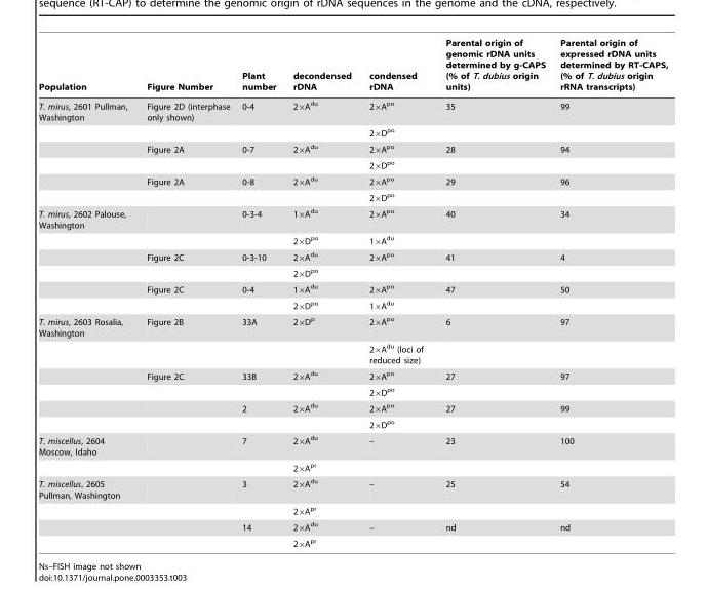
<table><thead><tr><td>Population</td><td>Figure Number</td><td>Plant number</td><td>decondensed rDNA</td><td>condensed rDNA</td><td>Parental origin of genomic rDNA units determined by g-CAPS (% of T. dubius origin units)</td><td>Parental origin of expressed rDNA units determined by RT-CAPS, (% of T. dubius origin rRNA transcripts)</td></tr></thead><tbody><tr><td rowspan="6">T. mirus, 2601 Pullman, Washington</td><td>Figure 2D (interphase only shown)</td><td>0-4</td><td>2×A<sup>du</sup></td><td>2×A<sup>po</sup></td><td>35</td><td>99</td></tr><tr><td></td><td></td><td></td><td>2×D<sup>po</sup></td><td></td><td></td></tr><tr><td>Figure 2A</td><td>0-7</td><td>2×A<sup>du</sup></td><td>2×A<sup>po</sup></td><td>28</td><td>94</td></tr><tr><td></td><td></td><td></td><td>2×D<sup>po</sup></td><td></td><td></td></tr><tr><td>Figure 2A</td><td>0-8</td><td>2×A<sup>du</sup></td><td>2×A<sup>po</sup></td><td>29</td><td>96</td></tr><tr><td></td><td></td><td></td><td>2×D<sup>po</sup></td><td></td><td></td></tr><tr><td rowspan="6">T. mirus, 2602 Palouse, Washington</td><td></td><td>0-3-4</td><td>1×A<sup>du</sup></td><td>2×A<sup>po</sup></td><td>40</td><td>34</td></tr><tr><td></td><td></td><td>2×D<sup>po</sup></td><td>1×A<sup>du</sup></td><td></td><td></td></tr><tr><td>Figure 2C</td><td>0-3-10</td><td>2×A<sup>du</sup></td><td>2×A<sup>po</sup></td><td>41</td><td>4</td></tr><tr><td></td><td></td><td>2×D<sup>po</sup></td><td></td><td></td><td></td></tr><tr><td>Figure 2C</td><td>0-4</td><td>1×A<sup>du</sup></td><td>2×A<sup>po</sup></td><td>47</td><td>50</td></tr><tr><td></td><td></td><td>2×D<sup>po</sup></td><td>1×A<sup>du</sup></td><td></td><td></td></tr><tr><td rowspan="6">T. mirus, 2603 Rosalia, Washington</td><td>Figure 2B</td><td>33A</td><td>2×D<sup>p</sup></td><td>2×A<sup>po</sup></td><td>6</td><td>97</td></tr><tr><td></td><td></td><td></td><td>2×A<sup>du</sup> (loci of reduced size)</td><td></td><td></td></tr><tr><td>Figure 2C</td><td>33B</td><td>2×A<sup>du</sup></td><td>2×A<sup>po</sup></td><td>27</td><td>97</td></tr><tr><td></td><td></td><td></td><td>2×D<sup>po</sup></td><td></td><td></td></tr><tr><td></td><td>2</td><td>2×A<sup>du</sup></td><td>2×A<sup>po</sup></td><td>27</td><td>99</td></tr><tr><td></td><td></td><td></td><td>2×D<sup>po</sup></td><td></td><td></td></tr><tr><td rowspan="2">T. miscellus, 2604 Moscow, Idaho</td><td></td><td>7</td><td>2×A<sup>du</sup></td><td>–</td><td>23</td><td>100</td></tr><tr><td></td><td></td><td>2×A<sup>pr</sup></td><td></td><td></td><td></td></tr><tr><td rowspan="4">T. miscellus, 2605 Pullman, Washington</td><td></td><td>3</td><td>2×A<sup>du</sup></td><td>–</td><td>25</td><td>54</td></tr><tr><td></td><td></td><td>2×A<sup>pr</sup></td><td></td><td></td><td></td></tr><tr><td></td><td>14</td><td>2×A<sup>du</sup></td><td>–</td><td>nd</td><td>nd</td></tr><tr><td></td><td></td><td>2×A<sup>pr</sup></td><td></td><td></td><td></td></tr></tbody></table>